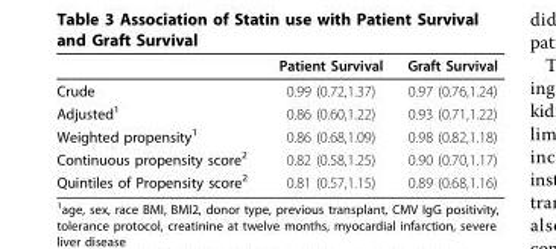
<table><thead><tr><td></td><td>Patient Survival</td><td>Graft Survival</td></tr></thead><tbody><tr><td>Crude</td><td>0.99 (0.72,1.37)</td><td>0.97 (0.76,1.24)</td></tr><tr><td>Adjusted<sup>1</sup></td><td>0.86 (0.60,1.22)</td><td>0.93 (0.71,1.22)</td></tr><tr><td>Weighted propensity<sup>1</sup></td><td>0.86 (0.68,1.09)</td><td>0.98 (0.82,1.18)</td></tr><tr><td>Continuous propensity score<sup>2</sup></td><td>0.82 (0.58,1.25)</td><td>0.90 (0.70,1.17)</td></tr><tr><td>Quintiles of Propensity score<sup>2</sup></td><td>0.81 (0.57,1.15)</td><td>0.89 (0.68,1.16)</td></tr></tbody></table>